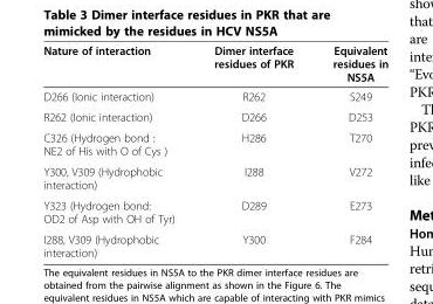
<table><thead><tr><td>Nature of interaction</td><td>Dimer interface residues of PKR</td><td>Equivalent residues in NS5A</td></tr></thead><tbody><tr><td>D266 (Ionic interaction)</td><td>R262</td><td>S249</td></tr><tr><td>R262 (Ionic interaction)</td><td>D266</td><td>D253</td></tr><tr><td>C326 (Hydrogen bond : NE2 of His with O of Cys )</td><td>H286</td><td>T270</td></tr><tr><td>Y300, V309 (Hydrophobic interaction)</td><td>I288</td><td>V272</td></tr><tr><td>Y323 (Hydrogen bond: OD2 of Asp with OH of Tyr)</td><td>D289</td><td>E273</td></tr><tr><td>I288, V309 (Hydrophobic interaction)</td><td>Y300</td><td>F284</td></tr></tbody></table>